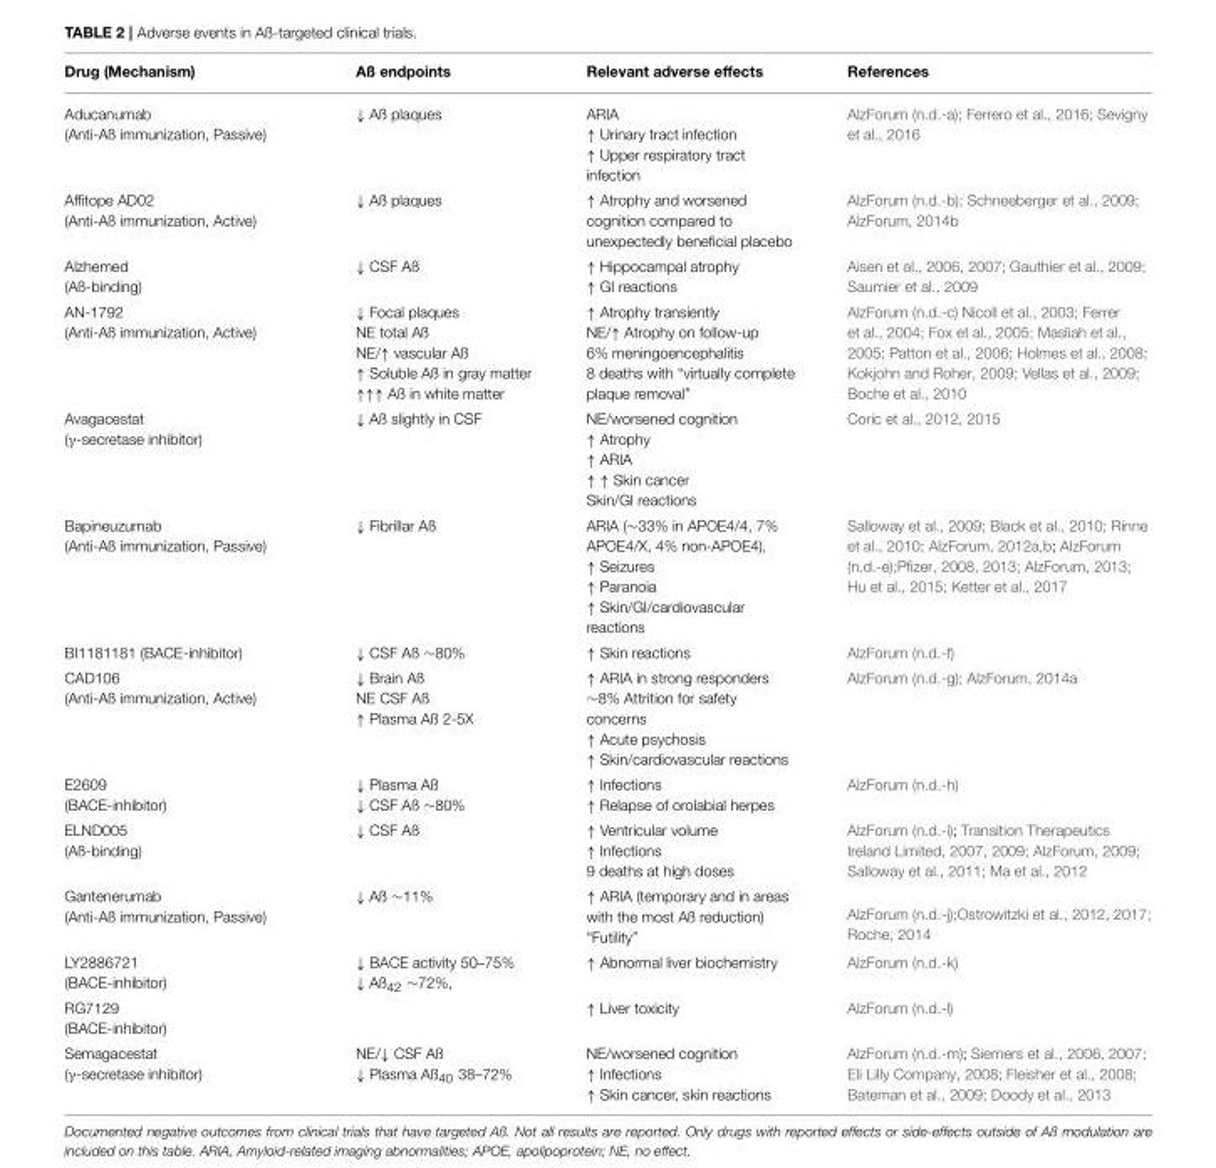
<table><thead><tr><td>Drug (Mechanism)</td><td>Aß endpoints</td><td>Relevant adverse effects</td><td>References</td></tr></thead><tbody><tr><td>Aducanumab (Anti-Aß immunization, Passive)</td><td>↓ Aß plaques</td><td>ARIA ↑ Urinary tract infection ↑ Upper respiratory tract infection</td><td>AlzForum (n.d.-a); Ferrero et al., 2016; Sevigny et al., 2016</td></tr><tr><td>Affitope AD02 (Anti-Aß immunization, Active)</td><td>↓ Aß plaques</td><td>↑ Atrophy and worsened cognition compared to unexpectedly beneficial placebo</td><td>AlzForum (n.d.-b); Schneeberger et al., 2009; AlzForum, 2014b</td></tr><tr><td>Alzhemed (Aß-binding)</td><td>↓ CSF Aß</td><td>↑ Hippocampal atrophy ↑ GI reactions</td><td>Aisen et al., 2006, 2007; Gauthier et al., 2009; Saumier et al., 2009</td></tr><tr><td>AN-1792 (Anti-Aß immunization, Active)</td><td>↓ Focal plaques NE total Aß NE/↑ vascular Aß ↑ Soluble Aß in gray matter ↑↑↑ Aß in white matter</td><td>↑ Atrophy transiently NE/↑ Atrophy on follow-up 6% meningoencephalitis 8 deaths with “virtually complete plaque removal”</td><td>AlzForum (n.d.-c) Nicoll et al., 2003; Ferrer et al., 2004; Fox et al., 2005; Masliah et al., 2005; Patton et al., 2006; Holmes et al., 2008; Kokjohn and Roher, 2009; Vellas et al., 2009; Boche et al., 2010</td></tr><tr><td>Avagacestat (γ-secretase inhibitor)</td><td>↓ Aß slightly in CSF</td><td>NE/worsened cognition ↑ Atrophy ↑ ARIA ↑ ↑ Skin cancer Skin/GI reactions</td><td>Coric et al., 2012, 2015</td></tr><tr><td>Bapineuzumab (Anti-Aß immunization, Passive)</td><td>↓ Fibrillar Aß</td><td>ARIA (∼33% in APOE4/4, 7% APOE4/X, 4% non-APOE4), ↑ Seizures ↑ Paranoia ↑ Skin/GI/cardiovascular reactions</td><td>Salloway et al., 2009; Black et al., 2010; Rinne et al., 2010; AlzForum, 2012a,b; AlzForum (n.d.-e);Pfizer, 2008, 2013; AlzForum, 2013; Hu et al., 2015; Ketter et al., 2017</td></tr><tr><td>BI1181181 (BACE-inhibitor)</td><td>↓ CSF Aß ∼80%</td><td>↑ Skin reactions</td><td>AlzForum (n.d.-f)</td></tr><tr><td>CAD106 (Anti-Aß immunization, Active)</td><td>↓ Brain Aß NE CSF Aß ↑ Plasma Aß 2-5X</td><td>↑ ARIA in strong responders ∼8% Attrition for safety concerns ↑ Acute psychosis ↑ Skin/cardiovascular reactions</td><td>AlzForum (n.d.-g); AlzForum, 2014a</td></tr><tr><td>E2609 (BACE-inhibitor)</td><td>↓ Plasma Aß ↓ CSF Aß ∼80%</td><td>↑ Infections ↑ Relapse of orolabial herpes</td><td>AlzForum (n.d.-h)</td></tr><tr><td>ELND005 (Aß-binding)</td><td>↓ CSF Aß</td><td>↑ Ventricular volume ↑ Infections 9 deaths at high doses</td><td>AlzForum (n.d.-i); Transition Therapeutics Ireland Limited, 2007, 2009; AlzForum, 2009; Salloway et al., 2011; Ma et al., 2012</td></tr><tr><td>Gantenerumab (Anti-Aß immunization, Passive)</td><td>↓ Aß ∼11%</td><td>↑ ARIA (temporary and in areas with the most Aß reduction) “Futility”</td><td>AlzForum (n.d.-j);Ostrowitzki et al., 2012, 2017; Roche, 2014</td></tr><tr><td>LY2886721 (BACE-inhibitor)</td><td>↓ BACE activity 50–75% ↓ Aß42 ∼72%,</td><td>↑ Abnormal liver biochemistry</td><td>AlzForum (n.d.-k)</td></tr><tr><td>RG7129 (BACE-inhibitor)</td><td></td><td>↑ Liver toxicity</td><td>AlzForum (n.d.-l)</td></tr><tr><td>Semagacestat (γ-secretase inhibitor)</td><td>NE/↓ CSF Aß ↓ Plasma Aß<sub>40</sub> 38–72%</td><td>NE/worsened cognition ↑ Infections ↑ Skin cancer, skin reactions</td><td>AlzForum (n.d.-m); Siemers et al., 2006, 2007; Eli Lilly Company, 2008; Fleisher et al., 2008; Bateman et al., 2009; Doody et al., 2013</td></tr></tbody></table>